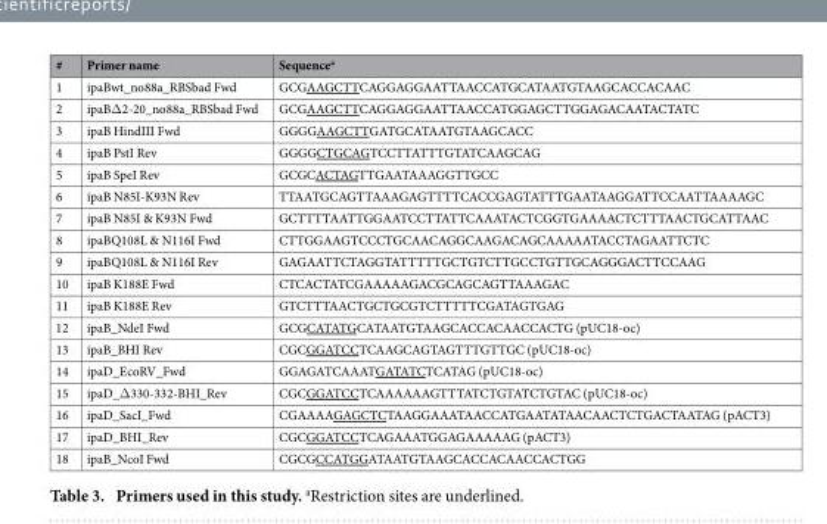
<table><thead><tr><td>#</td><td>Primer name</td><td>Sequence<sup>a</sup></td></tr></thead><tbody><tr><td>1</td><td>ipaBwt_no88a_RBSbad Fwd</td><td>GCGAAGCTTCAGGAGGAATTAACCATGCATAATGTAAGCACCACAAC</td></tr><tr><td>2</td><td>ipaBΔ 2-20_no88a_RBSbad Fwd</td><td>GCGAAGCTTCAGGAGGAATTAACCATGGAGCTTGGAGACAATACTATC</td></tr><tr><td>3</td><td>ipaB HindIII Fwd</td><td>GGGGAAGCTTGATGCATAATGTAAGCACC</td></tr><tr><td>4</td><td>ipaB PstI Rev</td><td>GGGGCTGCAGTCCTTATTTGTATCAAGCAG</td></tr><tr><td>5</td><td>ipaB SpeI Rev</td><td>GCGCACTAGTTGAATAAAGGTTGCC</td></tr><tr><td>6</td><td>ipaB N85I-K93N Rev</td><td>TTAATGCAGTTAAAGAGTTTTCACCGAGTATTTGAATAAGGATTCCAATTAAAAGC</td></tr><tr><td>7</td><td>ipaB N85I &amp; K93N Fwd</td><td>GCTTTTAATTGGAATCCTTATTCAAATACTCGGTGAAAACTCTTTAACTGCATTAAC</td></tr><tr><td>8</td><td>ipaBQ108L &amp; N116I Fwd</td><td>CTTGGAAGTCCCTGCAACAGGCAAGACAGCAAAAATACCTAGAATTCTC</td></tr><tr><td>9</td><td>ipaBQ108L &amp; N116I Rev</td><td>GAGAATTCTAGGTATTTTTGCTGTCTTGCCTGTTGCAGGGACTTCCAAG</td></tr><tr><td>10</td><td>ipaB K188E Fwd</td><td>CTCACTATCGAAAAAGACGCAGCAGTTAAAGAC</td></tr><tr><td>11</td><td>ipaB K188E Rev</td><td>GTCTTTAACTGCTGCGTCTTTTTCGATAGTGAG</td></tr><tr><td>12</td><td>ipaB_NdeI Fwd</td><td>GCGCATATGCATAATGTAAGCACCACAACCACTG (pUC18-oc)</td></tr><tr><td>13</td><td>ipaB_BHI Rev</td><td>CGCGGATCCTCAAGCAGTAGTTTGTTGC (pUC18-oc)</td></tr><tr><td>14</td><td>ipaD_EcoRV_Fwd</td><td>GGAGATCAAATGATATCTCATAG (pUC18-oc)</td></tr><tr><td>15</td><td>ipaD_Δ 330-332-BHI_Rev</td><td>CGCGGATCCTCAAAAAAGTTTATCTGTATCTGTAC (pUC18-oc)</td></tr><tr><td>16</td><td>ipaD_SacI_Fwd</td><td>CGAAAAGAGCTCTAAGGAAATAACCATGAATATAACAACTCTGACTAATAG (pACT3)</td></tr><tr><td>17</td><td>ipaD_BHI_Rev</td><td>CGCGGATCCTCAGAAATGGAGAAAAAG (pACT3)</td></tr><tr><td>18</td><td>ipaB_NcoI Fwd</td><td>CGCGCCATGGATAATGTAAGCACCACAACCACTGG</td></tr></tbody></table>